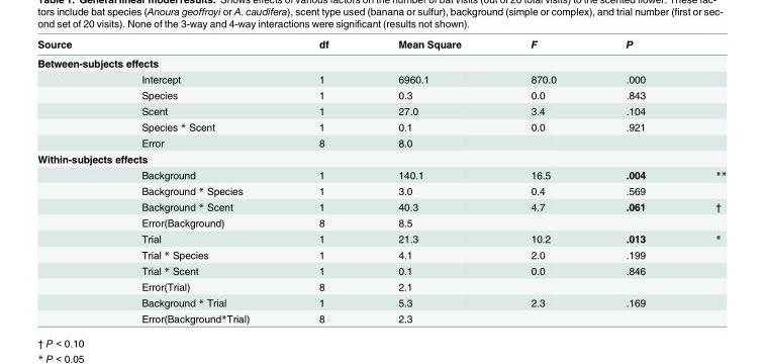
<table><thead><tr><td>Source</td><td></td><td>df</td><td>Mean Square</td><td>F</td><td>P</td><td></td></tr></thead><tbody><tr><td colspan="7">Between-subjects effects</td></tr><tr><td></td><td>Intercept</td><td>1</td><td>6960.1</td><td>870.0</td><td>.000</td><td></td></tr><tr><td></td><td>Species</td><td>1</td><td>0.3</td><td>0.0</td><td>.843</td><td></td></tr><tr><td></td><td>Scent</td><td>1</td><td>27.0</td><td>3.4</td><td>.104</td><td></td></tr><tr><td></td><td>Species * Scent</td><td>1</td><td>0.1</td><td>0.0</td><td>.921</td><td></td></tr><tr><td></td><td>Error</td><td>8</td><td>8.0</td><td></td><td></td><td></td></tr><tr><td colspan="7">Within-subjects effects</td></tr><tr><td></td><td>Background</td><td>1</td><td>140.1</td><td>16.5</td><td>.004</td><td>**</td></tr><tr><td></td><td>Background * Species</td><td>1</td><td>3.0</td><td>0.4</td><td>.569</td><td></td></tr><tr><td></td><td>Background * Scent</td><td>1</td><td>40.3</td><td>4.7</td><td>.061</td><td>†</td></tr><tr><td></td><td>Error(Background)</td><td>8</td><td>8.5</td><td></td><td></td><td></td></tr><tr><td></td><td>Trial</td><td>1</td><td>21.3</td><td>10.2</td><td>.013</td><td>*</td></tr><tr><td></td><td>Trial * Species</td><td>1</td><td>4.1</td><td>2.0</td><td>.199</td><td></td></tr><tr><td></td><td>Trial * Scent</td><td>1</td><td>0.1</td><td>0.0</td><td>.846</td><td></td></tr><tr><td></td><td>Error(Trial)</td><td>8</td><td>2.1</td><td></td><td></td><td></td></tr><tr><td></td><td>Background * Trial</td><td>1</td><td>5.3</td><td>2.3</td><td>.169</td><td></td></tr><tr><td></td><td>Error(Background*Trial)</td><td>8</td><td>2.3</td><td></td><td></td><td></td></tr></tbody></table>